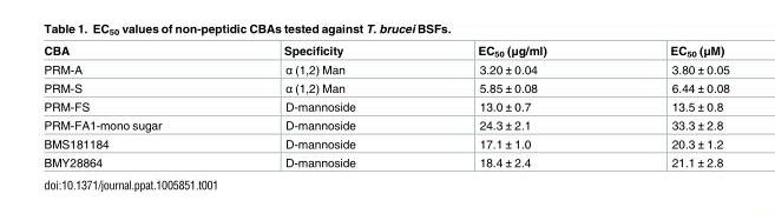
<table><thead><tr><td>CBA</td><td>Specificity</td><td>EC<sub>50</sub> (μg/ml)</td><td>EC<sub>50</sub> (μM)</td></tr></thead><tbody><tr><td>PRM-A</td><td>α (1,2) Man</td><td>3.20 ± 0.04</td><td>3.80 ± 0.05</td></tr><tr><td>PRM-S</td><td>α (1,2) Man</td><td>5.85 ± 0.08</td><td>6.44 ± 0.08</td></tr><tr><td>PRM-FS</td><td>D-mannoside</td><td>13.0 ± 0.7</td><td>13.5 ± 0.8</td></tr><tr><td>PRM-FA1-mono sugar</td><td>D-mannoside</td><td>24.3 ± 2.1</td><td>33.3 ± 2.8</td></tr><tr><td>BMS181184</td><td>D-mannoside</td><td>17.1 ± 1.0</td><td>20.3 ± 1.2</td></tr><tr><td>BMY28864</td><td>D-mannoside</td><td>18.4 ± 2.4</td><td>21.1 ± 2.8</td></tr></tbody></table>